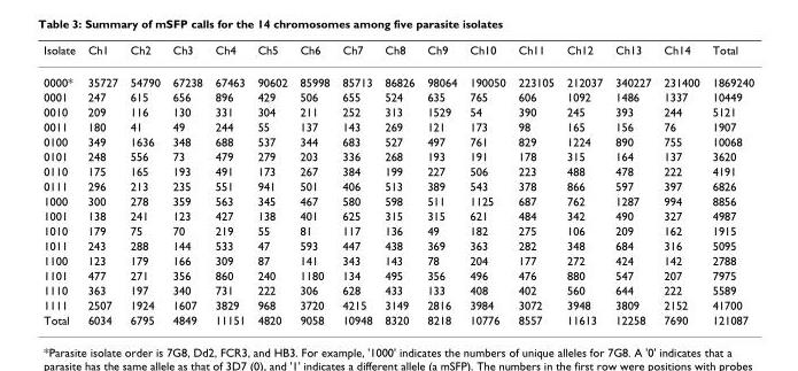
<table><thead><tr><td>Isolate</td><td>Ch1</td><td>Ch2</td><td>Ch3</td><td>Ch4</td><td>Ch5</td><td>Ch6</td><td>Ch7</td><td>Ch8</td><td>Ch9</td><td>Ch10</td><td>Ch11</td><td>Ch12</td><td>Ch13</td><td>Ch14</td><td>Total</td></tr></thead><tbody><tr><td>0000*</td><td>35727</td><td>54790</td><td>67238</td><td>67463</td><td>90602</td><td>85998</td><td>85713</td><td>86826</td><td>98064</td><td>190050</td><td>223105</td><td>212037</td><td>340227</td><td>231400</td><td>1869240</td></tr><tr><td>0001</td><td>247</td><td>615</td><td>656</td><td>896</td><td>429</td><td>506</td><td>655</td><td>524</td><td>635</td><td>765</td><td>606</td><td>1092</td><td>1486</td><td>1337</td><td>10449</td></tr><tr><td>0010</td><td>209</td><td>116</td><td>130</td><td>331</td><td>304</td><td>211</td><td>252</td><td>313</td><td>1529</td><td>54</td><td>390</td><td>245</td><td>393</td><td>244</td><td>5121</td></tr><tr><td>0011</td><td>180</td><td>41</td><td>49</td><td>244</td><td>55</td><td>137</td><td>143</td><td>269</td><td>121</td><td>173</td><td>98</td><td>165</td><td>156</td><td>76</td><td>1907</td></tr><tr><td>0100</td><td>349</td><td>1636</td><td>348</td><td>688</td><td>537</td><td>344</td><td>683</td><td>527</td><td>497</td><td>761</td><td>829</td><td>1224</td><td>890</td><td>755</td><td>10068</td></tr><tr><td>0101</td><td>248</td><td>556</td><td>73</td><td>479</td><td>279</td><td>203</td><td>336</td><td>268</td><td>193</td><td>191</td><td>178</td><td>315</td><td>164</td><td>137</td><td>3620</td></tr><tr><td>0110</td><td>175</td><td>165</td><td>193</td><td>491</td><td>173</td><td>267</td><td>384</td><td>199</td><td>227</td><td>506</td><td>223</td><td>488</td><td>478</td><td>222</td><td>4191</td></tr><tr><td>0111</td><td>296</td><td>213</td><td>235</td><td>551</td><td>941</td><td>501</td><td>406</td><td>513</td><td>389</td><td>543</td><td>378</td><td>866</td><td>597</td><td>397</td><td>6826</td></tr><tr><td>1000</td><td>300</td><td>278</td><td>359</td><td>563</td><td>345</td><td>467</td><td>580</td><td>598</td><td>511</td><td>1125</td><td>687</td><td>762</td><td>1287</td><td>994</td><td>8856</td></tr><tr><td>1001</td><td>138</td><td>241</td><td>123</td><td>427</td><td>138</td><td>401</td><td>625</td><td>315</td><td>315</td><td>621</td><td>484</td><td>342</td><td>490</td><td>327</td><td>4987</td></tr><tr><td>1010</td><td>179</td><td>75</td><td>70</td><td>219</td><td>55</td><td>81</td><td>117</td><td>136</td><td>49</td><td>182</td><td>275</td><td>106</td><td>209</td><td>162</td><td>1915</td></tr><tr><td>1011</td><td>243</td><td>288</td><td>144</td><td>533</td><td>47</td><td>593</td><td>447</td><td>438</td><td>369</td><td>363</td><td>282</td><td>348</td><td>684</td><td>316</td><td>5095</td></tr><tr><td>1100</td><td>123</td><td>179</td><td>166</td><td>309</td><td>87</td><td>141</td><td>343</td><td>143</td><td>78</td><td>204</td><td>177</td><td>272</td><td>424</td><td>142</td><td>2788</td></tr><tr><td>1101</td><td>477</td><td>271</td><td>356</td><td>860</td><td>240</td><td>1180</td><td>134</td><td>495</td><td>356</td><td>496</td><td>476</td><td>880</td><td>547</td><td>207</td><td>7975</td></tr><tr><td>1110</td><td>363</td><td>197</td><td>340</td><td>731</td><td>222</td><td>306</td><td>628</td><td>433</td><td>133</td><td>408</td><td>402</td><td>560</td><td>644</td><td>222</td><td>5589</td></tr><tr><td>1111</td><td>2507</td><td>1924</td><td>1607</td><td>3829</td><td>968</td><td>3720</td><td>4215</td><td>3149</td><td>2816</td><td>3984</td><td>3072</td><td>3948</td><td>3809</td><td>2152</td><td>41700</td></tr><tr><td>Total</td><td>6034</td><td>6795</td><td>4849</td><td>11151</td><td>4820</td><td>9058</td><td>10948</td><td>8320</td><td>8218</td><td>10776</td><td>8557</td><td>11613</td><td>12258</td><td>7690</td><td>121087</td></tr></tbody></table>